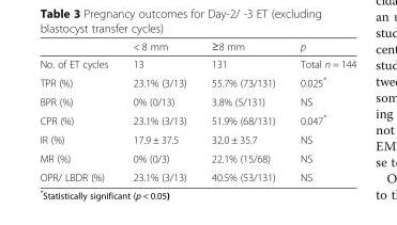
<table><thead><tr><td></td><td>&lt; 8 mm</td><td>≥8 mm</td><td>p</td></tr></thead><tbody><tr><td>No. of ET cycles</td><td>13</td><td>131</td><td>Total n = 144</td></tr><tr><td>TPR (%)</td><td>23.1% (3/13)</td><td>55.7% (73/131)</td><td>0.025*</td></tr><tr><td>BPR (%)</td><td>0% (0/13)</td><td>3.8% (5/131)</td><td>NS</td></tr><tr><td>CPR (%)</td><td>23.1% (3/13)</td><td>51.9% (68/131)</td><td>0.047*</td></tr><tr><td>IR (%)</td><td>17.9 ± 37.5</td><td>32.0 ± 35.7</td><td>NS</td></tr><tr><td>MR (%)</td><td>0% (0/3)</td><td>22.1% (15/68)</td><td>NS</td></tr><tr><td>OPR/ LBDR (%)</td><td>23.1% (3/13)</td><td>40.5% (53/131)</td><td>NS</td></tr></tbody></table>